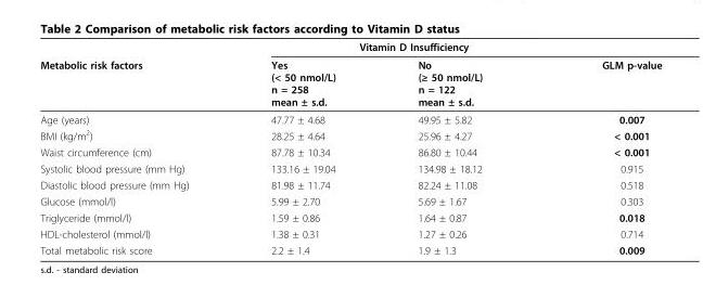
<table><thead><tr><td rowspan="2">Metabolic risk factors</td><td colspan="2">Vitamin D Insufficiency</td><td rowspan="2">GLM p-value</td></tr><tr><td>Yes (&lt; 50 nmol/L) n = 258 mean ± s.d.</td><td>No (≥ 50 nmol/L) n = 122 mean ± s.d.</td></tr></thead><tbody><tr><td>Age (years)</td><td>47.77 ± 4.68</td><td>49.95 ± 5.82</td><td>0.007</td></tr><tr><td>BMI (kg/m<sup>2</sup>)</td><td>28.25 ± 4.64</td><td>25.96 ± 4.27</td><td>&lt; 0.001</td></tr><tr><td>Waist circumference (cm)</td><td>87.78 ± 10.34</td><td>86.80 ± 10.44</td><td>&lt; 0.001</td></tr><tr><td>Systolic blood pressure (mm Hg)</td><td>133.16 ± 19.04</td><td>134.98 ± 18.12</td><td>0.915</td></tr><tr><td>Diastolic blood pressure (mm Hg)</td><td>81.98 ± 11.74</td><td>82.24 ± 11.08</td><td>0.518</td></tr><tr><td>Glucose (mmol/l)</td><td>5.99 ± 2.70</td><td>5.69 ± 1.67</td><td>0.303</td></tr><tr><td>Triglyceride (mmol/l)</td><td>1.59 ± 0.86</td><td>1.64 ± 0.87</td><td>0.018</td></tr><tr><td>HDL-cholesterol (mmol/l)</td><td>1.38 ± 0.31</td><td>1.27 ± 0.26</td><td>0.714</td></tr><tr><td>Total metabolic risk score</td><td>2.2 ± 1.4</td><td>1.9 ± 1.3</td><td>0.009</td></tr></tbody></table>